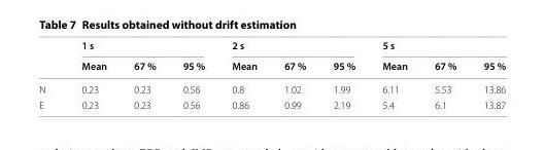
<table><thead><tr><td rowspan="2"></td><td colspan="3">1 s</td><td colspan="3">2 s</td><td colspan="3">5 s</td></tr><tr><td>Mean</td><td>67 %</td><td>95 %</td><td>Mean</td><td>67 %</td><td>95 %</td><td>Mean</td><td>67 %</td><td>95 %</td></tr></thead><tbody><tr><td>N</td><td>0.23</td><td>0.23</td><td>0.56</td><td>0.8</td><td>1.02</td><td>1.99</td><td>6.11</td><td>5.53</td><td>13.86</td></tr><tr><td>E</td><td>0.23</td><td>0.23</td><td>0.56</td><td>0.86</td><td>0.99</td><td>2.19</td><td>5.4</td><td>6.1</td><td>13.87</td></tr></tbody></table>